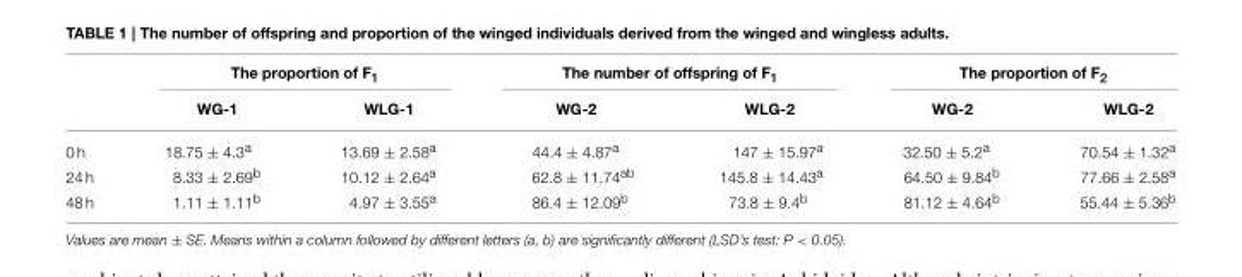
<table><thead><tr><td rowspan="2"></td><td colspan="2">The proportion of F<sub>1</sub></td><td colspan="2">The number of offspring of F<sub>1</sub></td><td colspan="2">The proportion of F<sub>2</sub></td></tr><tr><td>WG-1</td><td>WLG-1</td><td>WG-2</td><td>WLG-2</td><td>WG-2</td><td>WLG-2</td></tr></thead><tbody><tr><td>0 h</td><td>18.75 ± 4.3<sup>a</sup></td><td>13.69 ± 2.58<sup>a</sup></td><td>44.4 ± 4.87<sup>a</sup></td><td>147 ± 15.97<sup>a</sup></td><td>32.50 ± 5.2<sup>a</sup></td><td>70.54 ± 1.32<sup>a</sup></td></tr><tr><td>24 h</td><td>8.33 ± 2.69<sup>b</sup></td><td>10.12 ± 2.64<sup>a</sup></td><td>62.8 ± 11.74<sup>ab</sup></td><td>145.8 ± 14.43<sup>a</sup></td><td>64.50 ± 9.84<sup>b</sup></td><td>77.66 ± 2.58<sup>a</sup></td></tr><tr><td>48 h</td><td>1.11 ± 1.11<sup>b</sup></td><td>4.97 ± 3.55<sup>a</sup></td><td>86.4 ± 12.09<sup>b</sup></td><td>73.8 ± 9.4<sup>b</sup></td><td>81.12 ± 4.64<sup>b</sup></td><td>55.44 ± 5.36<sup>b</sup></td></tr></tbody></table>